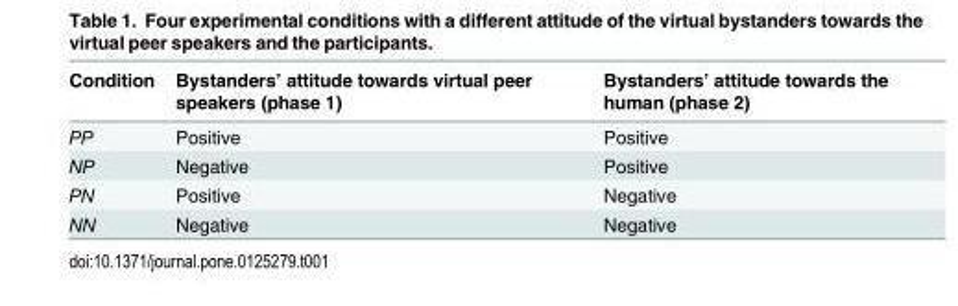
<table><thead><tr><td>Condition</td><td>Bystanders’ attitude towards virtual peer speakers (phase 1)</td><td>Bystanders’ attitude towards the human (phase 2)</td></tr></thead><tbody><tr><td>PP</td><td>Positive</td><td>Positive</td></tr><tr><td>NP</td><td>Negative</td><td>Positive</td></tr><tr><td>PN</td><td>Positive</td><td>Negative</td></tr><tr><td>NN</td><td>Negative</td><td>Negative</td></tr></tbody></table>